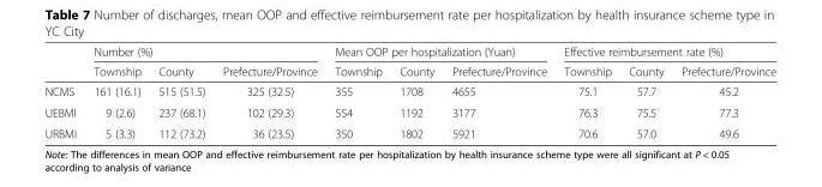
<table><thead><tr><td rowspan="2"></td><td colspan="3">Number (%)</td><td colspan="3">Mean OOP per hospitalization (Yuan)</td><td colspan="3">Effective reimbursement rate (%)</td></tr><tr><td>Township</td><td>County</td><td>Prefecture/Province</td><td>Township</td><td>County</td><td>Prefecture/Province</td><td>Township</td><td>County</td><td>Prefecture/Province</td></tr></thead><tbody><tr><td>NCMS</td><td>161 (16.1)</td><td>515 (51.5)</td><td>325 (32.5)</td><td>355</td><td>1708</td><td>4655</td><td>75.1</td><td>57.7</td><td>45.2</td></tr><tr><td>UEBMI</td><td>9 (2.6)</td><td>237 (68.1)</td><td>102 (29.3)</td><td>554</td><td>1192</td><td>3177</td><td>76.3</td><td>75.5</td><td>77.3</td></tr><tr><td>URBMI</td><td>5 (3.3)</td><td>112 (73.2)</td><td>36 (23.5)</td><td>350</td><td>1802</td><td>5921</td><td>70.6</td><td>57.0</td><td>49.6</td></tr></tbody></table>